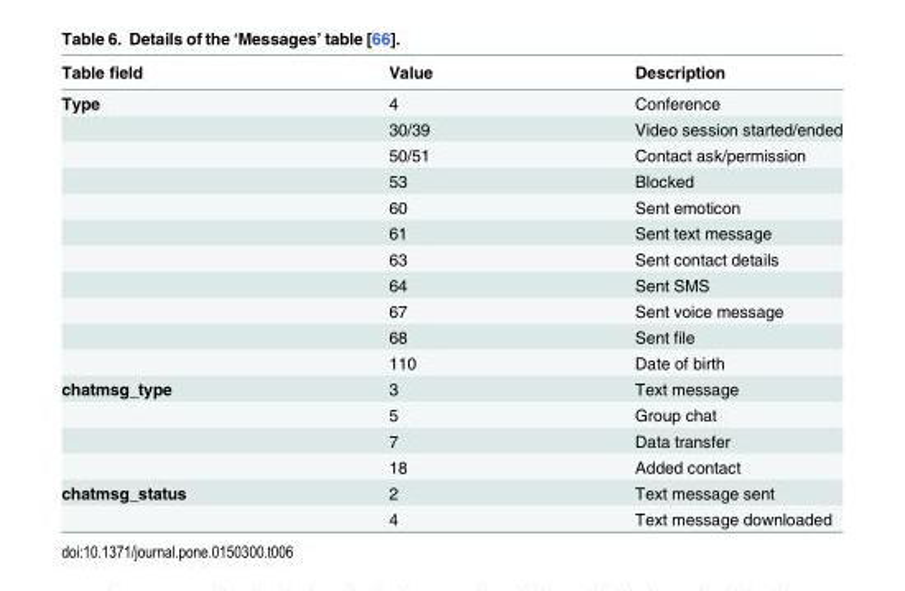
<table><thead><tr><td>Table field</td><td>Value</td><td>Description</td></tr></thead><tbody><tr><td rowspan="11">Type</td><td>4</td><td>Conference</td></tr><tr><td>30/39</td><td>Video session started/ended</td></tr><tr><td>50/51</td><td>Contact ask/permission</td></tr><tr><td>53</td><td>Blocked</td></tr><tr><td>60</td><td>Sent emoticon</td></tr><tr><td>61</td><td>Sent text message</td></tr><tr><td>63</td><td>Sent contact details</td></tr><tr><td>64</td><td>Sent SMS</td></tr><tr><td>67</td><td>Sent voice message</td></tr><tr><td>68</td><td>Sent file</td></tr><tr><td>110</td><td>Date of birth</td></tr><tr><td rowspan="4">chatmsg_type</td><td>3</td><td>Text message</td></tr><tr><td>5</td><td>Group chat</td></tr><tr><td>7</td><td>Data transfer</td></tr><tr><td>18</td><td>Added contact</td></tr><tr><td rowspan="2">chatmsg_status</td><td>2</td><td>Text message sent</td></tr><tr><td>4</td><td>Text message downloaded</td></tr></tbody></table>